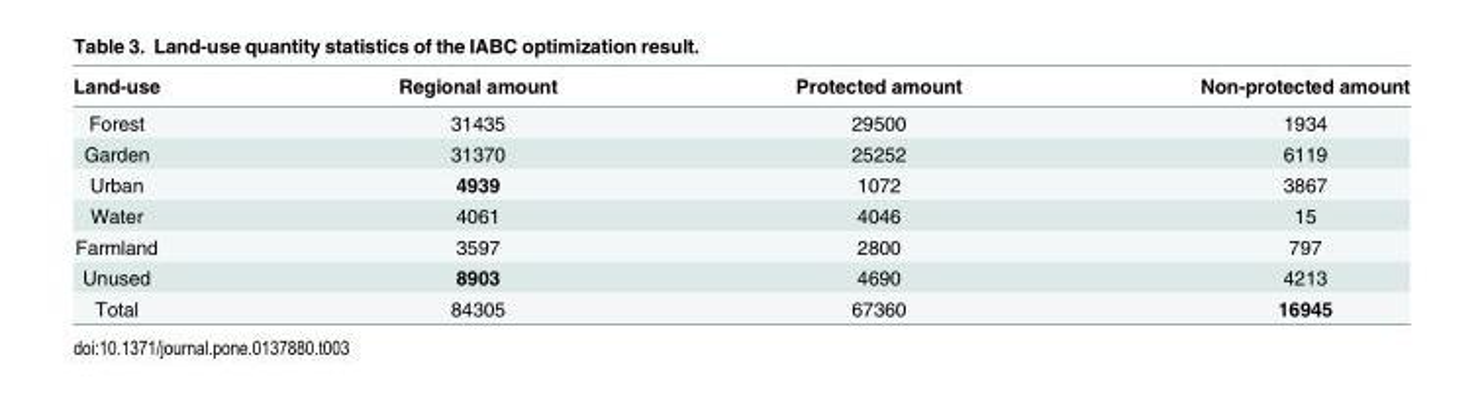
<table><thead><tr><td>Land-use</td><td>Regional amount</td><td>Protected amount</td><td>Non-protected amount</td></tr></thead><tbody><tr><td>Forest</td><td>31435</td><td>29500</td><td>1934</td></tr><tr><td>Garden</td><td>31370</td><td>25252</td><td>6119</td></tr><tr><td>Urban</td><td>4939</td><td>1072</td><td>3867</td></tr><tr><td>Water</td><td>4061</td><td>4046</td><td>15</td></tr><tr><td>Farmland</td><td>3597</td><td>2800</td><td>797</td></tr><tr><td>Unused</td><td>8903</td><td>4690</td><td>4213</td></tr><tr><td>Total</td><td>84305</td><td>67360</td><td>16945</td></tr></tbody></table>